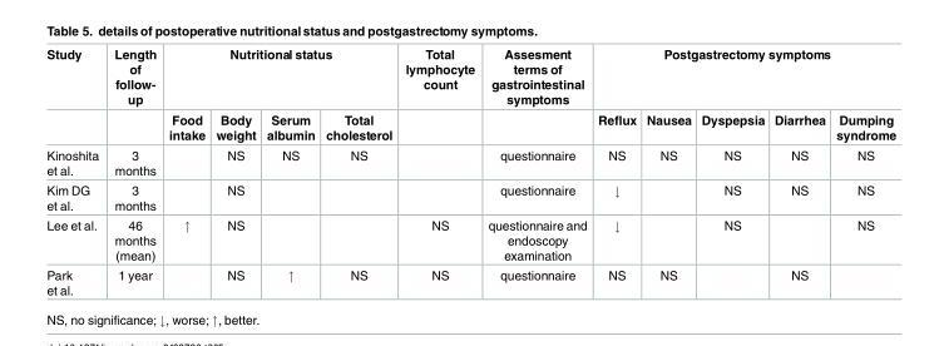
<table><thead><tr><td rowspan="2">Study</td><td rowspan="2">Length of follow- up</td><td colspan="4">Nutritional status</td><td rowspan="2">Total lymphocyte count</td><td rowspan="2">Assesment terms of gastrointestinal symptoms</td><td colspan="5">Postgastrectomy symptoms</td></tr><tr><td>Food intake</td><td>Body weight</td><td>Serum albumin</td><td>Total cholesterol</td><td>Reflux</td><td>Nausea</td><td>Dyspepsia</td><td>Diarrhea</td><td>Dumping syndrome</td></tr></thead><tbody><tr><td>Kinoshita et al.</td><td>3 months</td><td></td><td>NS</td><td>NS</td><td>NS</td><td></td><td>questionnaire</td><td>NS</td><td>NS</td><td>NS</td><td>NS</td><td>NS</td></tr><tr><td>Kim DG et al.</td><td>3 months</td><td></td><td>NS</td><td></td><td></td><td></td><td>questionnaire</td><td>↓</td><td></td><td>NS</td><td>NS</td><td>NS</td></tr><tr><td>Lee et al.</td><td>46 months (mean)</td><td>↑</td><td>NS</td><td></td><td></td><td>NS</td><td>questionnaire and endoscopy examination</td><td>↓</td><td></td><td>NS</td><td></td><td>NS</td></tr><tr><td>Park et al.</td><td>1 year</td><td></td><td>NS</td><td>↑</td><td>NS</td><td>NS</td><td>questionnaire</td><td>NS</td><td>NS</td><td></td><td>NS</td><td></td></tr></tbody></table>